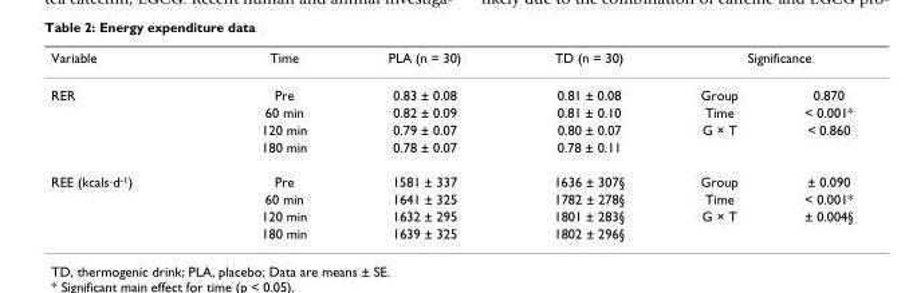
<table><thead><tr><td rowspan="2">Variable RER</td><td rowspan="2">Time Pre</td><td rowspan="2">PLA (n = 30) 0.83 ± 0.08</td><td rowspan="2">TD (n = 30) 0.81 ± 0.08</td><td colspan="2">Significance</td></tr><tr><td>Group</td><td>0.870</td></tr></thead><tbody><tr><td></td><td>60 min</td><td>0.82 ± 0.09</td><td>0.81 ± 0.10</td><td>Time</td><td>&lt; 0.001*</td></tr><tr><td></td><td>120 min</td><td>0.79 ± 0.07</td><td>0.80 ± 0.07</td><td>G × T</td><td>&lt; 0.860</td></tr><tr><td></td><td>180 min</td><td>0.78 ± 0.07</td><td>0.78 ± 0.11</td><td></td><td></td></tr><tr><td rowspan="4">REE (kcals·d<sup>-1</sup>)</td><td>Pre</td><td>1581 ± 337</td><td>1636 ± 307§</td><td>Group</td><td>± 0.090</td></tr><tr><td>60 min</td><td>1641 ± 325</td><td>1782 ± 278§</td><td>Time</td><td>&lt; 0.001*</td></tr><tr><td>120 min</td><td>1632 ± 295</td><td>1801 ± 283§</td><td>G × T</td><td>± 0.004§</td></tr><tr><td>180 min</td><td>1639 ± 325</td><td>1802 ± 296§</td><td></td><td></td></tr></tbody></table>